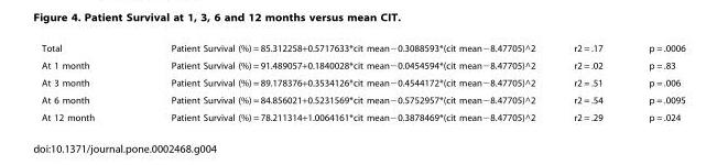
<table><tbody><tr><td>Total</td><td>Patient Survival (%) = 85.312258+0.5717633*cit mean20.3088593*(cit mean28.47705)^2</td><td>r2 = .17</td><td>p = .0006</td></tr><tr><td>At 1 month</td><td>Patient Survival (%) = 91.489057+0.1840028*cit mean20.0454594*(cit mean28.47705)^2</td><td>r2 = .02</td><td>p = .83</td></tr><tr><td>At 3 month</td><td>Patient Survival (%) = 89.178376+0.3534126*cit mean20.4544172*(cit mean28.47705)^2</td><td>r2 = .51</td><td>p = .006</td></tr><tr><td>At 6 month</td><td>Patient Survival (%) = 84.856021+0.5231569*cit mean20.5752957*(cit mean28.47705)^2</td><td>r2 = .54</td><td>p = .0095</td></tr><tr><td>At 12 month</td><td>Patient Survival (%) = 78.211314+1.0064161*cit mean20.3878469*(cit mean28.47705)^2</td><td>r2 = .29</td><td>p = .024</td></tr></tbody></table>